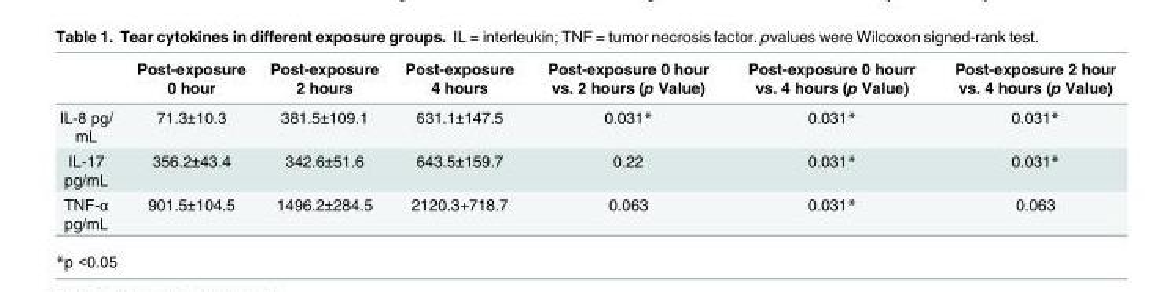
<table><thead><tr><td></td><td>Post-exposure 0 hour</td><td>Post-exposure 2 hours</td><td>Post-exposure 4 hours</td><td>Post-exposure 0 hour vs. 2 hours (p Value)</td><td>Post-exposure 0 hourr vs. 4 hours (p Value)</td><td>Post-exposure 2 hour vs. 4 hours (p Value)</td></tr></thead><tbody><tr><td>IL-8 pg/ mL</td><td>71.3±10.3</td><td>381.5±109.1</td><td>631.1±147.5</td><td>0.031*</td><td>0.031*</td><td>0.031*</td></tr><tr><td>IL-17 pg/mL</td><td>356.2±43.4</td><td>342.6±51.6</td><td>643.5±159.7</td><td>0.22</td><td>0.031*</td><td>0.031*</td></tr><tr><td>TNF-α pg/mL</td><td>901.5±104.5</td><td>1496.2±284.5</td><td>2120.3+718.7</td><td>0.063</td><td>0.031*</td><td>0.063</td></tr></tbody></table>